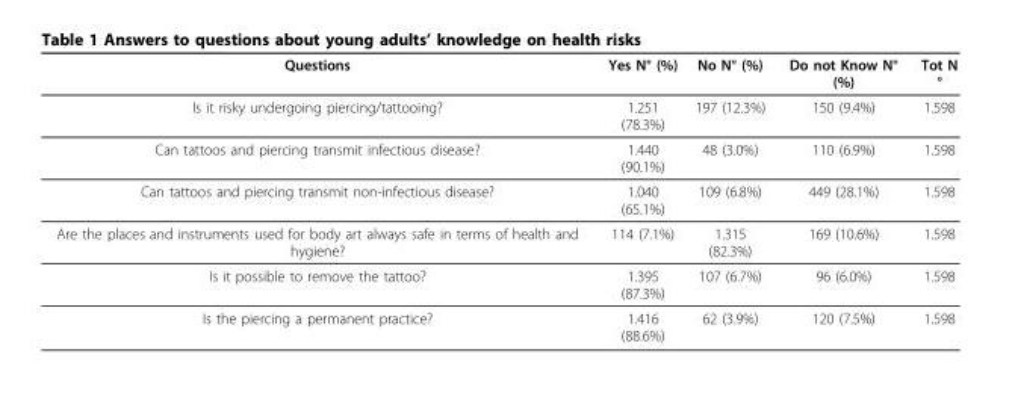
<table><thead><tr><td>Questions</td><td>Yes N° (%)</td><td>No N° (%)</td><td>Do not Know N° (%)</td><td>Tot N °</td></tr></thead><tbody><tr><td>Is it risky undergoing piercing/tattooing?</td><td>1.251 (78.3%)</td><td>197 (12.3%)</td><td>150 (9.4%)</td><td>1.598</td></tr><tr><td>Can tattoos and piercing transmit infectious disease?</td><td>1.440 (90.1%)</td><td>48 (3.0%)</td><td>110 (6.9%)</td><td>1.598</td></tr><tr><td>Can tattoos and piercing transmit non-infectious disease?</td><td>1.040 (65.1%)</td><td>109 (6.8%)</td><td>449 (28.1%)</td><td>1.598</td></tr><tr><td>Are the places and instruments used for body art always safe in terms of health and hygiene?</td><td>114 (7.1%)</td><td>1.315 (82.3%)</td><td>169 (10.6%)</td><td>1.598</td></tr><tr><td>Is it possible to remove the tattoo?</td><td>1.395 (87.3%)</td><td>107 (6.7%)</td><td>96 (6.0%)</td><td>1.598</td></tr><tr><td>Is the piercing a permanent practice?</td><td>1.416 (88.6%)</td><td>62 (3.9%)</td><td>120 (7.5%)</td><td>1.598</td></tr></tbody></table>